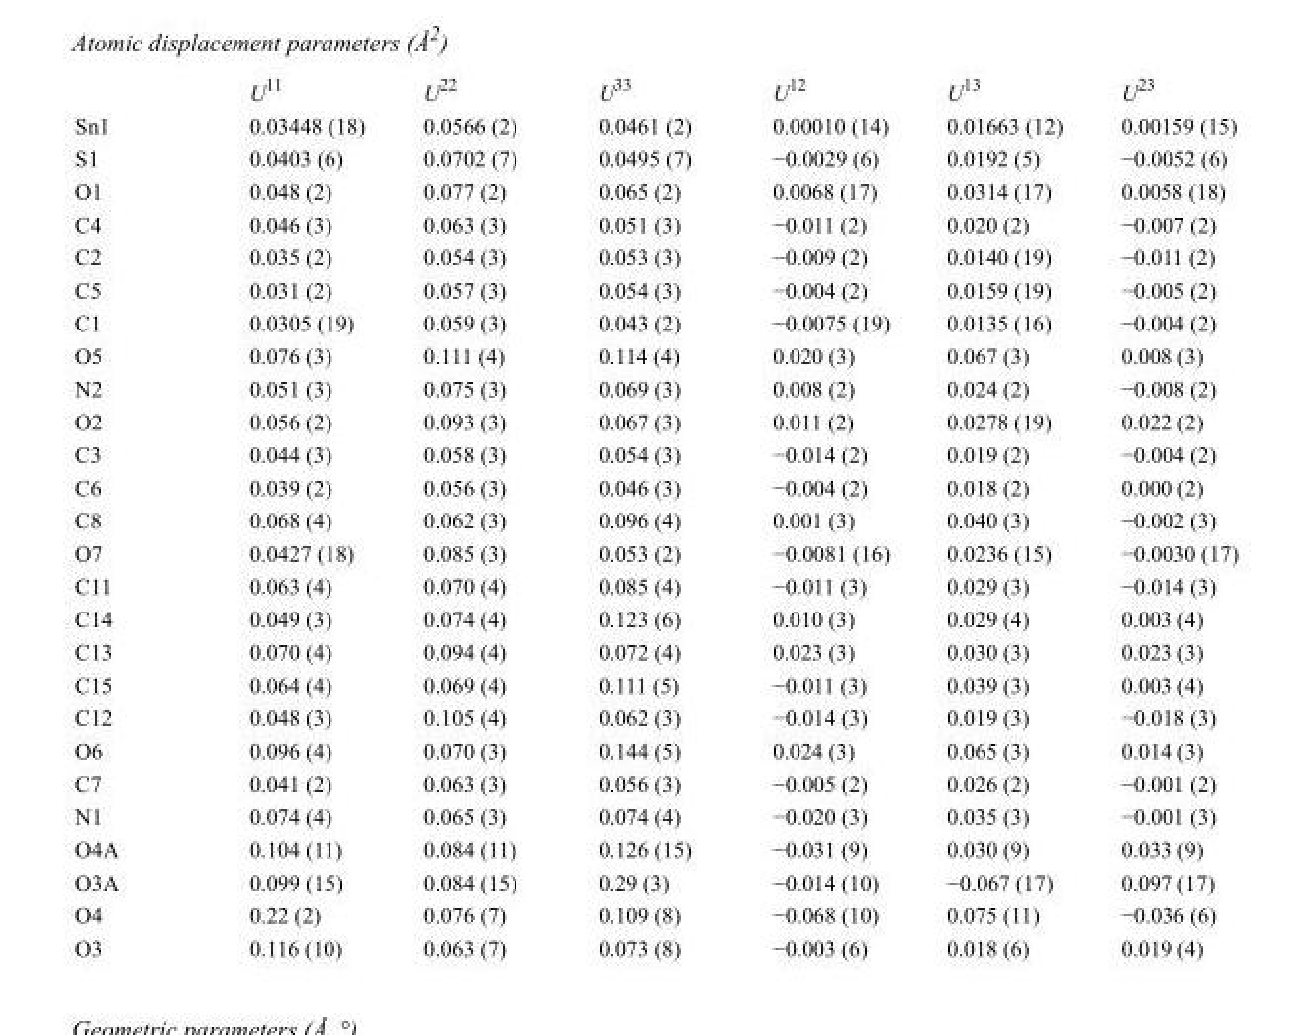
<table><thead><tr><td></td><td>U<sup>11</sup></td><td>U<sup>22</sup></td><td>U<sup>33</sup></td><td>U<sup>12</sup></td><td>U<sup>13</sup></td><td>U<sup>23</sup></td></tr></thead><tbody><tr><td>Sn1</td><td>0.03448 (18)</td><td>0.0566 (2)</td><td>0.0461 (2)</td><td>0.00010 (14)</td><td>0.01663 (12)</td><td>0.00159 (15)</td></tr><tr><td>S1</td><td>0.0403 (6)</td><td>0.0702 (7)</td><td>0.0495 (7)</td><td>−0.0029 (6)</td><td>0.0192 (5)</td><td>−0.0052 (6)</td></tr><tr><td>O1</td><td>0.048 (2)</td><td>0.077 (2)</td><td>0.065 (2)</td><td>0.0068 (17)</td><td>0.0314 (17)</td><td>0.0058 (18)</td></tr><tr><td>C4</td><td>0.046 (3)</td><td>0.063 (3)</td><td>0.051 (3)</td><td>−0.011 (2)</td><td>0.020 (2)</td><td>−0.007 (2)</td></tr><tr><td>C2</td><td>0.035 (2)</td><td>0.054 (3)</td><td>0.053 (3)</td><td>−0.009 (2)</td><td>0.0140 (19)</td><td>−0.011 (2)</td></tr><tr><td>C5</td><td>0.031 (2)</td><td>0.057 (3)</td><td>0.054 (3)</td><td>−0.004 (2)</td><td>0.0159 (19)</td><td>−0.005 (2)</td></tr><tr><td>C1</td><td>0.0305 (19)</td><td>0.059 (3)</td><td>0.043 (2)</td><td>−0.0075 (19)</td><td>0.0135 (16)</td><td>−0.004 (2)</td></tr><tr><td>O5</td><td>0.076 (3)</td><td>0.111 (4)</td><td>0.114 (4)</td><td>0.020 (3)</td><td>0.067 (3)</td><td>0.008 (3)</td></tr><tr><td>N2</td><td>0.051 (3)</td><td>0.075 (3)</td><td>0.069 (3)</td><td>0.008 (2)</td><td>0.024 (2)</td><td>−0.008 (2)</td></tr><tr><td>O2</td><td>0.056 (2)</td><td>0.093 (3)</td><td>0.067 (3)</td><td>0.011 (2)</td><td>0.0278 (19)</td><td>0.022 (2)</td></tr><tr><td>C3</td><td>0.044 (3)</td><td>0.058 (3)</td><td>0.054 (3)</td><td>−0.014 (2)</td><td>0.019 (2)</td><td>−0.004 (2)</td></tr><tr><td>C6</td><td>0.039 (2)</td><td>0.056 (3)</td><td>0.046 (3)</td><td>−0.004 (2)</td><td>0.018 (2)</td><td>0.000 (2)</td></tr><tr><td>C8</td><td>0.068 (4)</td><td>0.062 (3)</td><td>0.096 (4)</td><td>0.001 (3)</td><td>0.040 (3)</td><td>−0.002 (3)</td></tr><tr><td>O7</td><td>0.0427 (18)</td><td>0.085 (3)</td><td>0.053 (2)</td><td>−0.0081 (16)</td><td>0.0236 (15)</td><td>−0.0030 (17)</td></tr><tr><td>C11</td><td>0.063 (4)</td><td>0.070 (4)</td><td>0.085 (4)</td><td>−0.011 (3)</td><td>0.029 (3)</td><td>−0.014 (3)</td></tr><tr><td>C14</td><td>0.049 (3)</td><td>0.074 (4)</td><td>0.123 (6)</td><td>0.010 (3)</td><td>0.029 (4)</td><td>0.003 (4)</td></tr><tr><td>C13</td><td>0.070 (4)</td><td>0.094 (4)</td><td>0.072 (4)</td><td>0.023 (3)</td><td>0.030 (3)</td><td>0.023 (3)</td></tr><tr><td>C15</td><td>0.064 (4)</td><td>0.069 (4)</td><td>0.111 (5)</td><td>−0.011 (3)</td><td>0.039 (3)</td><td>0.003 (4)</td></tr><tr><td>C12</td><td>0.048 (3)</td><td>0.105 (4)</td><td>0.062 (3)</td><td>−0.014 (3)</td><td>0.019 (3)</td><td>−0.018 (3)</td></tr><tr><td>O6</td><td>0.096 (4)</td><td>0.070 (3)</td><td>0.144 (5)</td><td>0.024 (3)</td><td>0.065 (3)</td><td>0.014 (3)</td></tr><tr><td>C7</td><td>0.041 (2)</td><td>0.063 (3)</td><td>0.056 (3)</td><td>−0.005 (2)</td><td>0.026 (2)</td><td>−0.001 (2)</td></tr><tr><td>N1</td><td>0.074 (4)</td><td>0.065 (3)</td><td>0.074 (4)</td><td>−0.020 (3)</td><td>0.035 (3)</td><td>−0.001 (3)</td></tr><tr><td>O4A</td><td>0.104 (11)</td><td>0.084 (11)</td><td>0.126 (15)</td><td>−0.031 (9)</td><td>0.030 (9)</td><td>0.033 (9)</td></tr><tr><td>O3A</td><td>0.099 (15)</td><td>0.084 (15)</td><td>0.29 (3)</td><td>−0.014 (10)</td><td>−0.067 (17)</td><td>0.097 (17)</td></tr><tr><td>O4</td><td>0.22 (2)</td><td>0.076 (7)</td><td>0.109 (8)</td><td>−0.068 (10)</td><td>0.075 (11)</td><td>−0.036 (6)</td></tr><tr><td>O3</td><td>0.116 (10)</td><td>0.063 (7)</td><td>0.073 (8)</td><td>−0.003 (6)</td><td>0.018 (6)</td><td>0.019 (4)</td></tr></tbody></table>